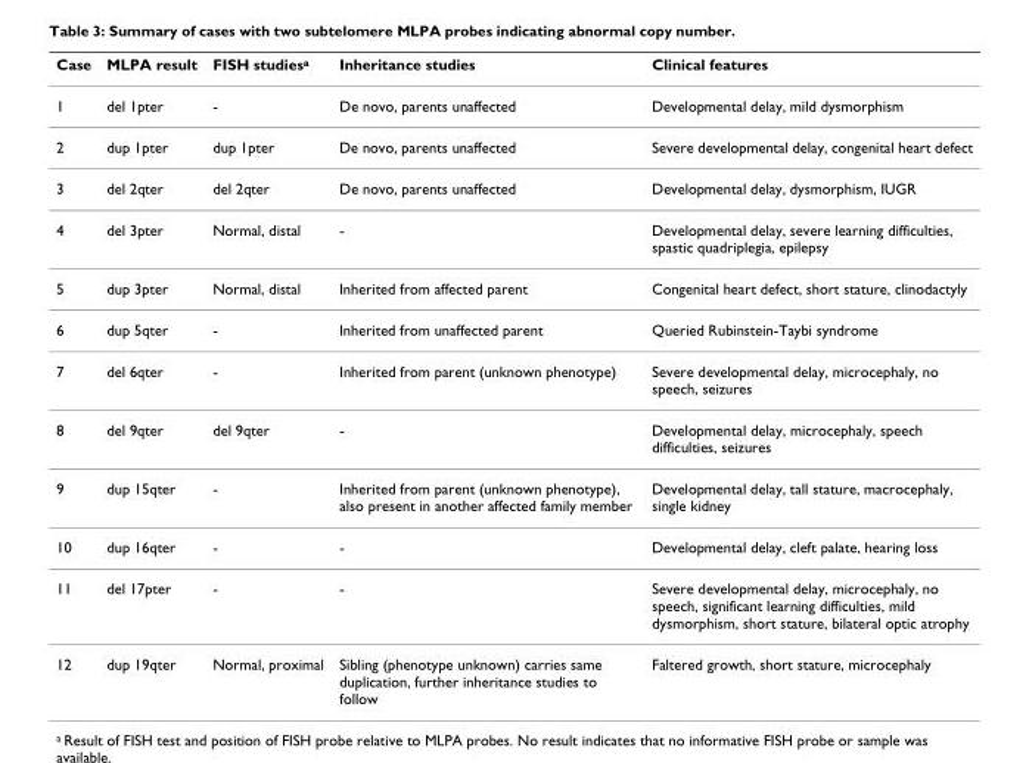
<table><thead><tr><td>Case</td><td>MLPA result</td><td>FISH studies<sup>a</sup></td><td>Inheritance studies</td><td>Clinical features</td></tr></thead><tbody><tr><td>1</td><td>del 1pter</td><td>-</td><td>De novo, parents unaffected</td><td>Developmental delay, mild dysmorphism</td></tr><tr><td>2</td><td>dup 1pter</td><td>dup 1pter</td><td>De novo, parents unaffected</td><td>Severe developmental delay, congenital heart defect</td></tr><tr><td>3</td><td>del 2qter</td><td>del 2qter</td><td>De novo, parents unaffected</td><td>Developmental delay, dysmorphism, IUGR</td></tr><tr><td>4</td><td>del 3pter</td><td>Normal, distal</td><td>-</td><td>Developmental delay, severe learning difficulties, spastic quadriplegia, epilepsy</td></tr><tr><td>5</td><td>dup 3pter</td><td>Normal, distal</td><td>Inherited from affected parent</td><td>Congenital heart defect, short stature, clinodactyly</td></tr><tr><td>6</td><td>dup 5qter</td><td>-</td><td>Inherited from unaffected parent</td><td>Queried Rubinstein-Taybi syndrome</td></tr><tr><td>7</td><td>del 6qter</td><td>-</td><td>Inherited from parent (unknown phenotype)</td><td>Severe developmental delay, microcephaly, no speech, seizures</td></tr><tr><td>8</td><td>del 9qter</td><td>del 9qter</td><td>-</td><td>Developmental delay, microcephaly, speech difficulties, seizures</td></tr><tr><td>9</td><td>dup 15qter</td><td>-</td><td>Inherited from parent (unknown phenotype), also present in another affected family member</td><td>Developmental delay, tall stature, macrocephaly, single kidney</td></tr><tr><td>10</td><td>dup 16qter</td><td>-</td><td>-</td><td>Developmental delay, cleft palate, hearing loss</td></tr><tr><td>11</td><td>del 17pter</td><td>-</td><td>-</td><td>Severe developmental delay, microcephaly, no speech, significant learning difficulties, mild dysmorphism, short stature, bilateral optic atrophy</td></tr><tr><td>12</td><td>dup 19qter</td><td>Normal, proximal</td><td>Sibling (phenotype unknown) carries same duplication, further inheritance studies to follow</td><td>Faltered growth, short stature, microcephaly</td></tr></tbody></table>